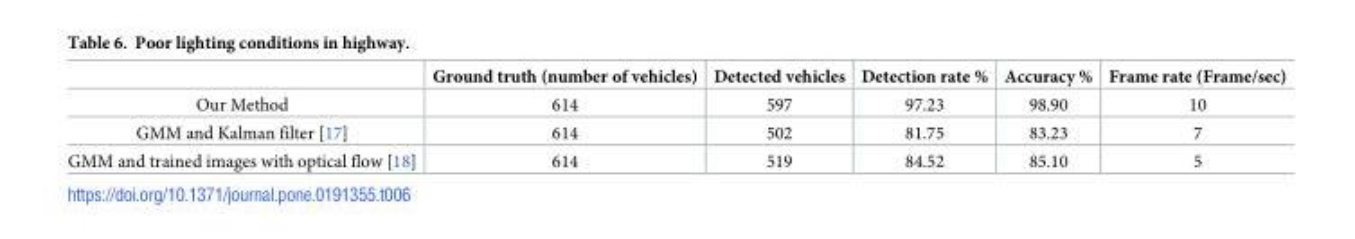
<table><thead><tr><td></td><td>Ground truth (number of vehicles)</td><td>Detected vehicles</td><td>Detection rate %</td><td>Accuracy %</td><td>Frame rate (Frame/sec)</td></tr></thead><tbody><tr><td>Our Method</td><td>614</td><td>597</td><td>97.23</td><td>98.90</td><td>10</td></tr><tr><td>GMM and Kalman filter [17]</td><td>614</td><td>502</td><td>81.75</td><td>83.23</td><td>7</td></tr><tr><td>GMM and trained images with optical flow [18]</td><td>614</td><td>519</td><td>84.52</td><td>85.10</td><td>5</td></tr></tbody></table>